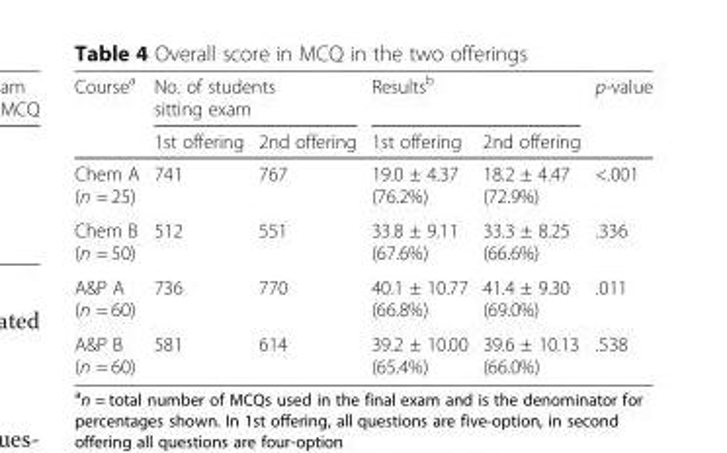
<table><thead><tr><td rowspan="2">Course<sup>a</sup></td><td colspan="2">No. of students sitting exam</td><td colspan="2">Results<sup>b</sup></td><td rowspan="2">p-value</td></tr><tr><td>1st offering</td><td>2nd offering</td><td>1st offering</td><td>2nd offering</td></tr></thead><tbody><tr><td>Chem A (n = 25)</td><td>741</td><td>767</td><td>19.0 ± 4.37 (76.2%)</td><td>18.2 ± 4.47 (72.9%)</td><td>&lt;.001</td></tr><tr><td>Chem B (n = 50)</td><td>512</td><td>551</td><td>33.8 ± 9.11 (67.6%)</td><td>33.3 ± 8.25 (66.6%)</td><td>.336</td></tr><tr><td>A&amp;P A (n = 60)</td><td>736</td><td>770</td><td>40.1 ± 10.77 (66.8%)</td><td>41.4 ± 9.30 (69.0%)</td><td>.011</td></tr><tr><td>A&amp;P B (n = 60)</td><td>581</td><td>614</td><td>39.2 ± 10.00 (65.4%)</td><td>39.6 ± 10.13 (66.0%)</td><td>.538</td></tr></tbody></table>